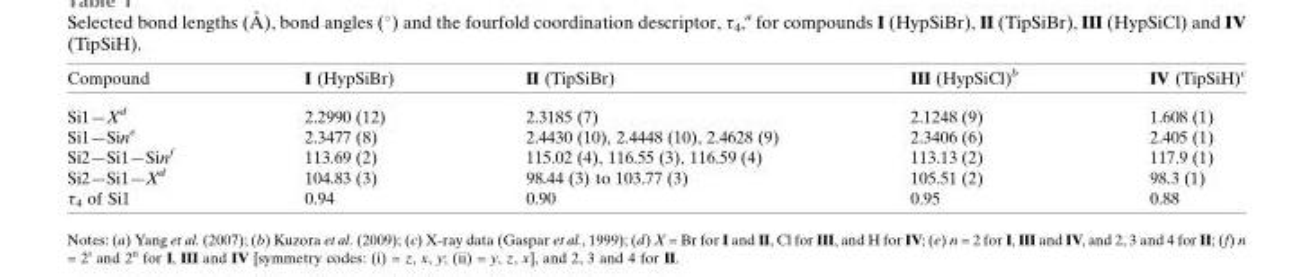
<table><thead><tr><td>Compound</td><td>I (HypSiBr)</td><td>II (TipSiBr)</td><td>III (HypSiCl)<sup>b</sup></td><td>IV (TipSiH)<sup>c</sup></td></tr></thead><tbody><tr><td>Si1—X<sup>d</sup></td><td>2.2990 (12)</td><td>2.3185 (7)</td><td>2.1248 (9)</td><td>1.608 (1)</td></tr><tr><td>Si1—Sin<sup>e</sup></td><td>2.3477 (8)</td><td>2.4430 (10), 2.4448 (10), 2.4628 (9)</td><td>2.3406 (6)</td><td>2.405 (1)</td></tr><tr><td>Si2—Si1—Sin<sup>f</sup></td><td>113.69 (2)</td><td>115.02 (4), 116.55 (3), 116.59 (4)</td><td>113.13 (2)</td><td>117.9 (1)</td></tr><tr><td>Si2—Si1—X<sup>d</sup></td><td>104.83 (3)</td><td>98.44 (3) to 103.77 (3)</td><td>105.51 (2)</td><td>98.3 (1)</td></tr><tr><td>τ<sub>4</sub> of Si1</td><td>0.94</td><td>0.90</td><td>0.95</td><td>0.88</td></tr></tbody></table>